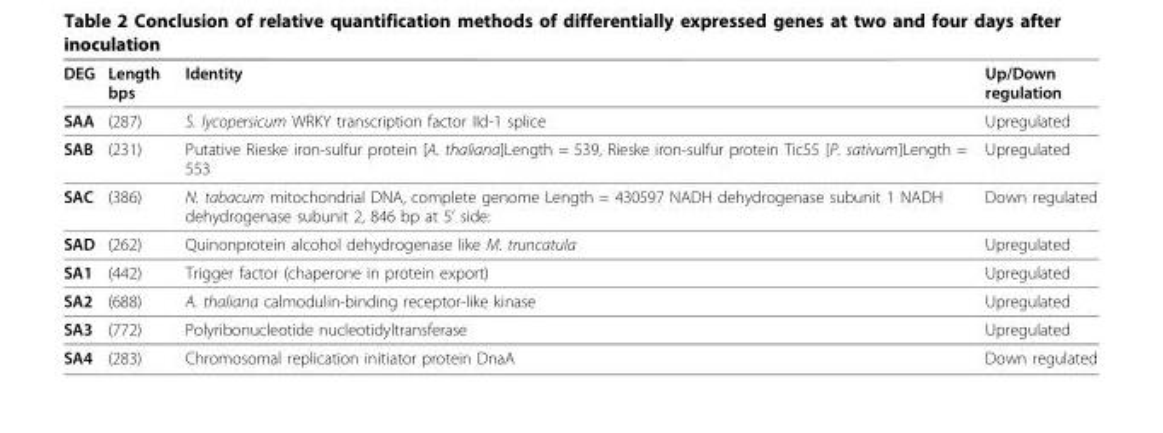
<table><thead><tr><td>DEG</td><td>Length bps</td><td>Identity</td><td>Up/Down regulation</td></tr></thead><tbody><tr><td>SAA</td><td>(287)</td><td>S. lycopersicum WRKY transcription factor IId-1 splice</td><td>Upregulated</td></tr><tr><td>SAB</td><td>(231)</td><td>Putative Rieske iron-sulfur protein [A. thaliana]Length = 539, Rieske iron-sulfur protein Tic55 [P. sativum]Length = 553</td><td>Upregulated</td></tr><tr><td>SAC</td><td>(386)</td><td>N. tabacum mitochondrial DNA, complete genome Length = 430597 NADH dehydrogenase subunit 1 NADH dehydrogenase subunit 2, 846 bp at 5’ side:</td><td>Down regulated</td></tr><tr><td>SAD</td><td>(262)</td><td>Quinonprotein alcohol dehydrogenase like M. truncatula</td><td>Upregulated</td></tr><tr><td>SA1</td><td>(442)</td><td>Trigger factor (chaperone in protein export)</td><td>Upregulated</td></tr><tr><td>SA2</td><td>(688)</td><td>A. thaliana calmodulin-binding receptor-like kinase</td><td>Upregulated</td></tr><tr><td>SA3</td><td>(772)</td><td>Polyribonucleotide nucleotidyltransferase</td><td>Upregulated</td></tr><tr><td>SA4</td><td>(283)</td><td>Chromosomal replication initiator protein DnaA</td><td>Down regulated</td></tr></tbody></table>